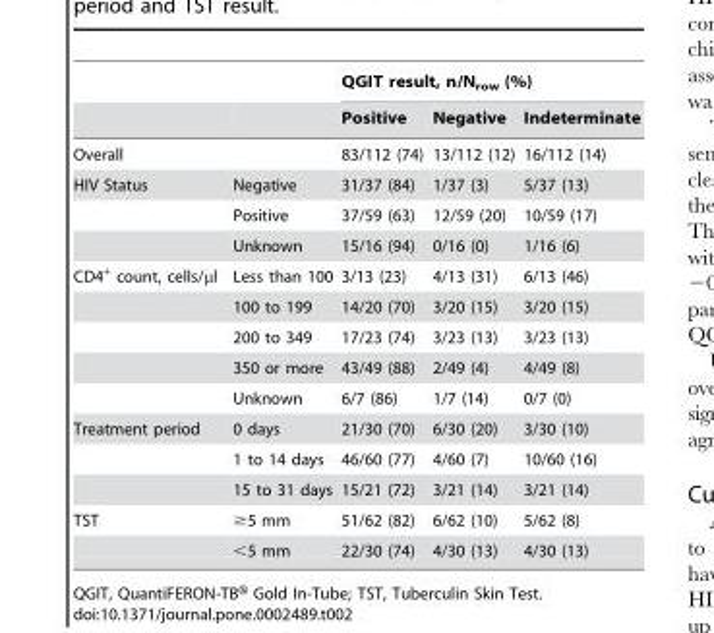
<table><thead><tr><td rowspan="2"></td><td rowspan="2"></td><td colspan="3">QGIT result, n/N<sub>row</sub> (%)</td></tr><tr><td>Positive</td><td>Negative</td><td>Indeterminate</td></tr></thead><tbody><tr><td>Overall</td><td></td><td>83/112 (74)</td><td>13/112 (12)</td><td>16/112 (14)</td></tr><tr><td rowspan="3">HIV Status</td><td>Negative</td><td>31/37 (84)</td><td>1/37 (3)</td><td>5/37 (13)</td></tr><tr><td>Positive</td><td>37/59 (63)</td><td>12/59 (20)</td><td>10/59 (17)</td></tr><tr><td>Unknown</td><td>15/16 (94)</td><td>0/16 (0)</td><td>1/16 (6)</td></tr><tr><td rowspan="5">CD4<sup>+</sup> count, cells/μl</td><td>Less than 100</td><td>3/13 (23)</td><td>4/13 (31)</td><td>6/13 (46)</td></tr><tr><td>100 to 199</td><td>14/20 (70)</td><td>3/20 (15)</td><td>3/20 (15)</td></tr><tr><td>200 to 349</td><td>17/23 (74)</td><td>3/23 (13)</td><td>3/23 (13)</td></tr><tr><td>350 or more</td><td>43/49 (88)</td><td>2/49 (4)</td><td>4/49 (8)</td></tr><tr><td>Unknown</td><td>6/7 (86)</td><td>1/7 (14)</td><td>0/7 (0)</td></tr><tr><td rowspan="3">Treatment period</td><td>0 days</td><td>21/30 (70)</td><td>6/30 (20)</td><td>3/30 (10)</td></tr><tr><td>1 to 14 days</td><td>46/60 (77)</td><td>4/60 (7)</td><td>10/60 (16)</td></tr><tr><td>15 to 31 days</td><td>15/21 (72)</td><td>3/21 (14)</td><td>3/21 (14)</td></tr><tr><td rowspan="2">TST</td><td>≥5 mm</td><td>51/62 (82)</td><td>6/62 (10)</td><td>5/62 (8)</td></tr><tr><td>&lt;5 mm</td><td>22/30 (74)</td><td>4/30 (13)</td><td>4/30 (13)</td></tr></tbody></table>